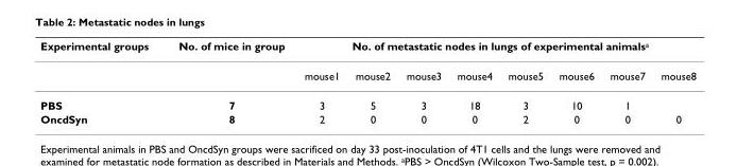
<table><thead><tr><td rowspan="2">Experimental groups</td><td rowspan="2">No. of mice in group</td><td colspan="8">No. of metastatic nodes in lungs of experimental animals<sup>a</sup></td></tr><tr><td>mouse1</td><td>mouse2</td><td>mouse3</td><td>mouse4</td><td>mouse5</td><td>mouse6</td><td>mouse7</td><td>mouse8</td></tr></thead><tbody><tr><td>PBS</td><td>7</td><td>3</td><td>5</td><td>3</td><td>18</td><td>3</td><td>10</td><td>1</td><td></td></tr><tr><td>OncdSyn</td><td>8</td><td>2</td><td>0</td><td>0</td><td>0</td><td>2</td><td>0</td><td>0</td><td>0</td></tr></tbody></table>